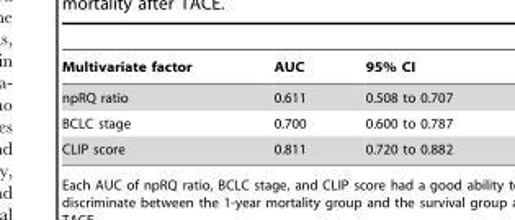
<table><thead><tr><td>Multivariate factor</td><td>AUC</td><td>95% CI</td></tr></thead><tbody><tr><td>npRQ ratio</td><td>0.611</td><td>0.508 to 0.707</td></tr><tr><td>BCLC stage</td><td>0.700</td><td>0.600 to 0.787</td></tr><tr><td>CLIP score</td><td>0.811</td><td>0.720 to 0.882</td></tr></tbody></table>